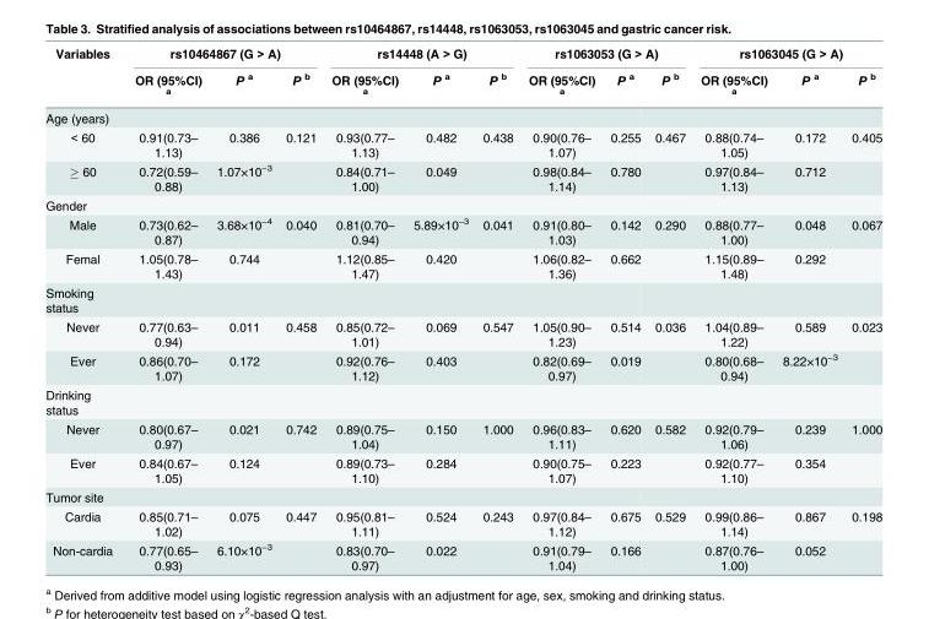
<table><thead><tr><td rowspan="2">Variables</td><td colspan="3">rs10464867 (G &gt; A)</td><td colspan="3">rs14448 (A &gt; G)</td><td colspan="3">rs1063053 (G &gt; A)</td><td colspan="3">rs1063045 (G &gt; A)</td></tr><tr><td>OR (95%CI) <sup>a</sup></td><td>P <sup>a</sup></td><td>P <sup>b</sup></td><td>OR (95%CI) <sup>a</sup></td><td>P <sup>a</sup></td><td>P <sup>b</sup></td><td>OR (95%CI) <sup>a</sup></td><td>P <sup>a</sup></td><td>P <sup>b</sup></td><td>OR (95%CI) <sup>a</sup></td><td>P <sup>a</sup></td><td>P <sup>b</sup></td></tr></thead><tbody><tr><td colspan="13">Age (years)</td></tr><tr><td>&lt; 60</td><td>0.91(0.73– 1.13)</td><td>0.386</td><td>0.121</td><td>0.93(0.77– 1.13)</td><td>0.482</td><td>0.438</td><td>0.90(0.76– 1.07)</td><td>0.255</td><td>0.467</td><td>0.88(0.74– 1.05)</td><td>0.172</td><td>0.405</td></tr><tr><td>≥ 60</td><td>0.72(0.59– 0.88)</td><td>1.07×10<sup>−3</sup></td><td></td><td>0.84(0.71– 1.00)</td><td>0.049</td><td></td><td>0.98(0.84– 1.14)</td><td>0.780</td><td></td><td>0.97(0.84– 1.13)</td><td>0.712</td><td></td></tr><tr><td colspan="13">Gender</td></tr><tr><td>Male</td><td>0.73(0.62– 0.87)</td><td>3.68×10<sup>−4</sup></td><td>0.040</td><td>0.81(0.70– 0.94)</td><td>5.89×10<sup>−3</sup></td><td>0.041</td><td>0.91(0.80– 1.03)</td><td>0.142</td><td>0.290</td><td>0.88(0.77– 1.00)</td><td>0.048</td><td>0.067</td></tr><tr><td>Femal</td><td>1.05(0.78– 1.43)</td><td>0.744</td><td></td><td>1.12(0.85– 1.47)</td><td>0.420</td><td></td><td>1.06(0.82– 1.36)</td><td>0.662</td><td></td><td>1.15(0.89– 1.48)</td><td>0.292</td><td></td></tr><tr><td colspan="13">Smoking status</td></tr><tr><td>Never</td><td>0.77(0.63– 0.94)</td><td>0.011</td><td>0.458</td><td>0.85(0.72– 1.01)</td><td>0.069</td><td>0.547</td><td>1.05(0.90– 1.23)</td><td>0.514</td><td>0.036</td><td>1.04(0.89– 1.22)</td><td>0.589</td><td>0.023</td></tr><tr><td>Ever</td><td>0.86(0.70– 1.07)</td><td>0.172</td><td></td><td>0.92(0.76– 1.12)</td><td>0.403</td><td></td><td>0.82(0.69– 0.97)</td><td>0.019</td><td></td><td>0.80(0.68– 0.94)</td><td>8.22×10<sup>−3</sup></td><td></td></tr><tr><td colspan="13">Drinking status</td></tr><tr><td>Never</td><td>0.80(0.67– 0.97)</td><td>0.021</td><td>0.742</td><td>0.89(0.75– 1.04)</td><td>0.150</td><td>1.000</td><td>0.96(0.83– 1.11)</td><td>0.620</td><td>0.582</td><td>0.92(0.79– 1.06)</td><td>0.239</td><td>1.000</td></tr><tr><td>Ever</td><td>0.84(0.67– 1.05)</td><td>0.124</td><td></td><td>0.89(0.73– 1.10)</td><td>0.284</td><td></td><td>0.90(0.75– 1.07)</td><td>0.223</td><td></td><td>0.92(0.77– 1.10)</td><td>0.354</td><td></td></tr><tr><td colspan="13">Tumor site</td></tr><tr><td>Cardia</td><td>0.85(0.71– 1.02)</td><td>0.075</td><td>0.447</td><td>0.95(0.81– 1.11)</td><td>0.524</td><td>0.243</td><td>0.97(0.84– 1.12)</td><td>0.675</td><td>0.529</td><td>0.99(0.86– 1.14)</td><td>0.867</td><td>0.198</td></tr><tr><td>Non-cardia</td><td>0.77(0.65– 0.93)</td><td>6.10×10<sup>−3</sup></td><td></td><td>0.83(0.70– 0.97)</td><td>0.022</td><td></td><td>0.91(0.79– 1.04)</td><td>0.166</td><td></td><td>0.87(0.76– 1.00)</td><td>0.052</td><td></td></tr></tbody></table>